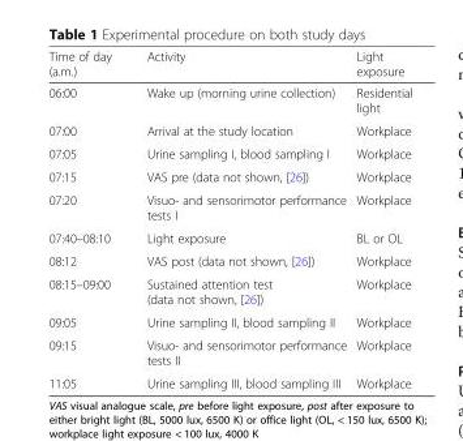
<table><thead><tr><td>Time of day (a.m.)</td><td>Activity</td><td>Light exposure</td></tr></thead><tbody><tr><td>06:00</td><td>Wake up (morning urine collection)</td><td>Residential light</td></tr><tr><td>07:00</td><td>Arrival at the study location</td><td>Workplace</td></tr><tr><td>07:05</td><td>Urine sampling I, blood sampling I</td><td>Workplace</td></tr><tr><td>07:15</td><td>VAS pre (data not shown, [26])</td><td>Workplace</td></tr><tr><td>07:20</td><td>Visuo- and sensorimotor performance tests I</td><td>Workplace</td></tr><tr><td>07:40–08:10</td><td>Light exposure</td><td>BL or OL</td></tr><tr><td>08:12</td><td>VAS post (data not shown, [26])</td><td>Workplace</td></tr><tr><td>08:15–09:00</td><td>Sustained attention test (data not shown, [26])</td><td>Workplace</td></tr><tr><td>09:05</td><td>Urine sampling II, blood sampling II</td><td>Workplace</td></tr><tr><td>09:15</td><td>Visuo- and sensorimotor performance tests II</td><td>Workplace</td></tr><tr><td>11:05</td><td>Urine sampling III, blood sampling III</td><td>Workplace</td></tr></tbody></table>